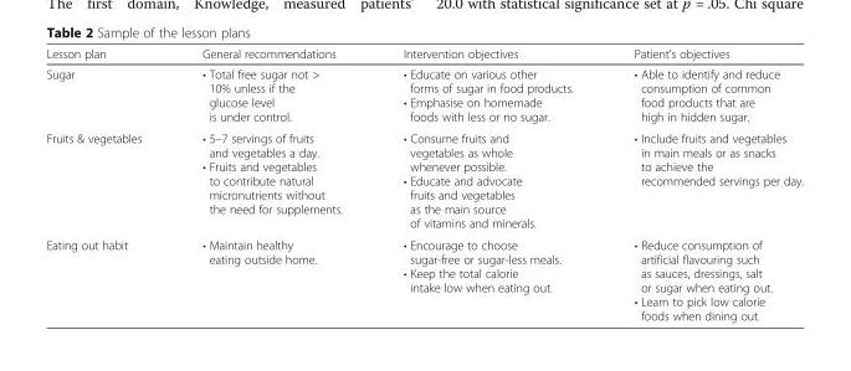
<table><thead><tr><td>Lesson plan</td><td>General recommendations</td><td>Intervention objectives</td><td>Patient’s objectives</td></tr></thead><tbody><tr><td>Sugar</td><td>• Total free sugar not &gt; 10% unless if the glucose level is under control.</td><td>• Educate on various other forms of sugar in food products. • Emphasise on homemade foods with less or no sugar.</td><td>• Able to identify and reduce consumption of common food products that are high in hidden sugar.</td></tr><tr><td>Fruits &amp; vegetables</td><td>• 5–7 servings of fruits and vegetables a day. • Fruits and vegetables to contribute natural micronutrients without the need for supplements.</td><td>• Consume fruits and vegetables as whole whenever possible. • Educate and advocate fruits and vegetables as the main source of vitamins and minerals.</td><td>• Include fruits and vegetables in main meals or as snacks to achieve the recommended servings per day.</td></tr><tr><td>Eating out habit</td><td>• Maintain healthy eating outside home.</td><td>• Encourage to choose sugar-free or sugar-less meals. • Keep the total calorie intake low when eating out.</td><td>• Reduce consumption of artificial flavouring such as sauces, dressings, salt or sugar when eating out. • Learn to pick low calorie foods when dining out.</td></tr></tbody></table>